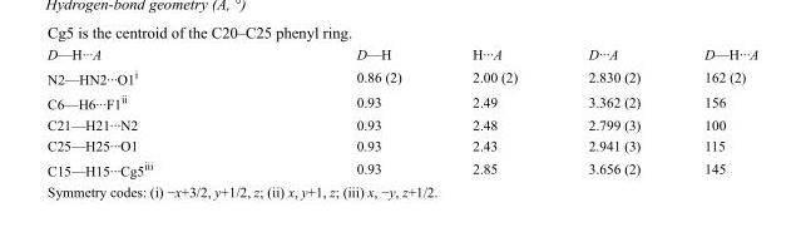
<table><tbody><tr><td>D—H···A</td><td>D—H</td><td>H···A</td><td>D···A</td><td>D—H···A</td></tr><tr><td>N2—HN2···O1<sup>i</sup></td><td>0.86 (2)</td><td>2.00 (2)</td><td>2.830 (2)</td><td>162 (2)</td></tr><tr><td>C6—H6···F1<sup>ii</sup></td><td>0.93</td><td>2.49</td><td>3.362 (2)</td><td>156</td></tr><tr><td>C21—H21···N2</td><td>0.93</td><td>2.48</td><td>2.799 (3)</td><td>100</td></tr><tr><td>C25—H25···O1</td><td>0.93</td><td>2.43</td><td>2.941 (3)</td><td>115</td></tr><tr><td>C15—H15···Cg5<sup>iii</sup></td><td>0.93</td><td>2.85</td><td>3.656 (2)</td><td>145</td></tr></tbody></table>